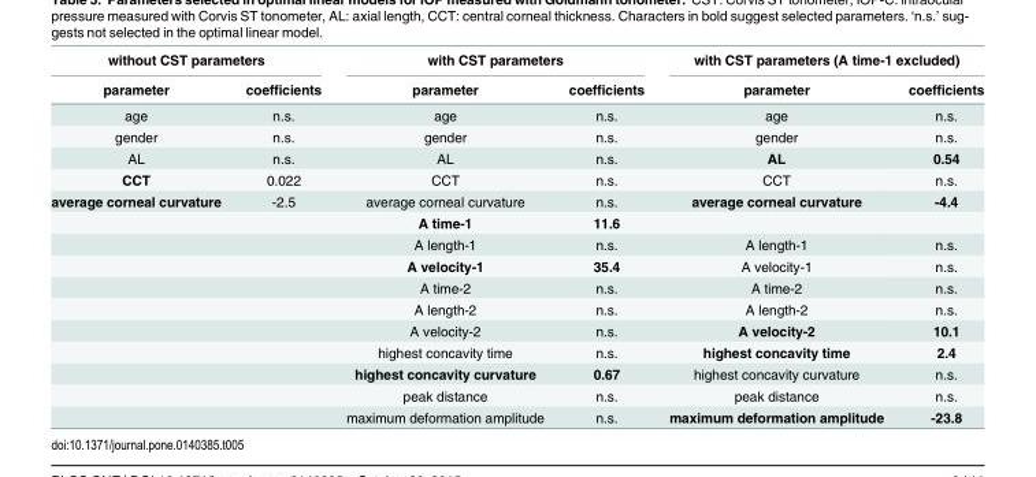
<table><thead><tr><td colspan="2">without CST parameters</td><td colspan="2">with CST parameters</td><td colspan="2">with CST parameters (A time-1 excluded)</td></tr><tr><td>parameter</td><td>coefficients</td><td>parameter</td><td>coefficients</td><td>parameter</td><td>coefficients</td></tr></thead><tbody><tr><td>age</td><td>n.s.</td><td>age</td><td>n.s.</td><td>age</td><td>n.s.</td></tr><tr><td>gender</td><td>n.s.</td><td>gender</td><td>n.s.</td><td>gender</td><td>n.s.</td></tr><tr><td>AL</td><td>n.s.</td><td>AL</td><td>n.s.</td><td>AL</td><td>0.54</td></tr><tr><td>CCT</td><td>0.022</td><td>CCT</td><td>n.s.</td><td>CCT</td><td>n.s.</td></tr><tr><td rowspan="11">average corneal curvature</td><td>-2.5</td><td>average corneal curvature</td><td>n.s.</td><td>average corneal curvature</td><td>-4.4</td></tr><tr><td></td><td>A time-1</td><td>11.6</td><td></td><td></td></tr><tr><td></td><td>A length-1</td><td>n.s.</td><td>A length-1</td><td>n.s.</td></tr><tr><td></td><td>A velocity-1</td><td>35.4</td><td>A velocity-1</td><td>n.s.</td></tr><tr><td></td><td>A time-2</td><td>n.s.</td><td>A time-2</td><td>n.s.</td></tr><tr><td></td><td>A length-2</td><td>n.s.</td><td>A length-2</td><td>n.s.</td></tr><tr><td></td><td>A velocity-2</td><td>n.s.</td><td>A velocity-2</td><td>10.1</td></tr><tr><td></td><td>highest concavity time</td><td>n.s.</td><td>highest concavity time</td><td>2.4</td></tr><tr><td></td><td>highest concavity curvature</td><td>0.67</td><td>highest concavity curvature</td><td>n.s.</td></tr><tr><td></td><td>peak distance</td><td>n.s.</td><td>peak distance</td><td>n.s.</td></tr><tr><td></td><td>maximum deformation amplitude</td><td>n.s.</td><td>maximum deformation amplitude</td><td>-23.8</td></tr></tbody></table>